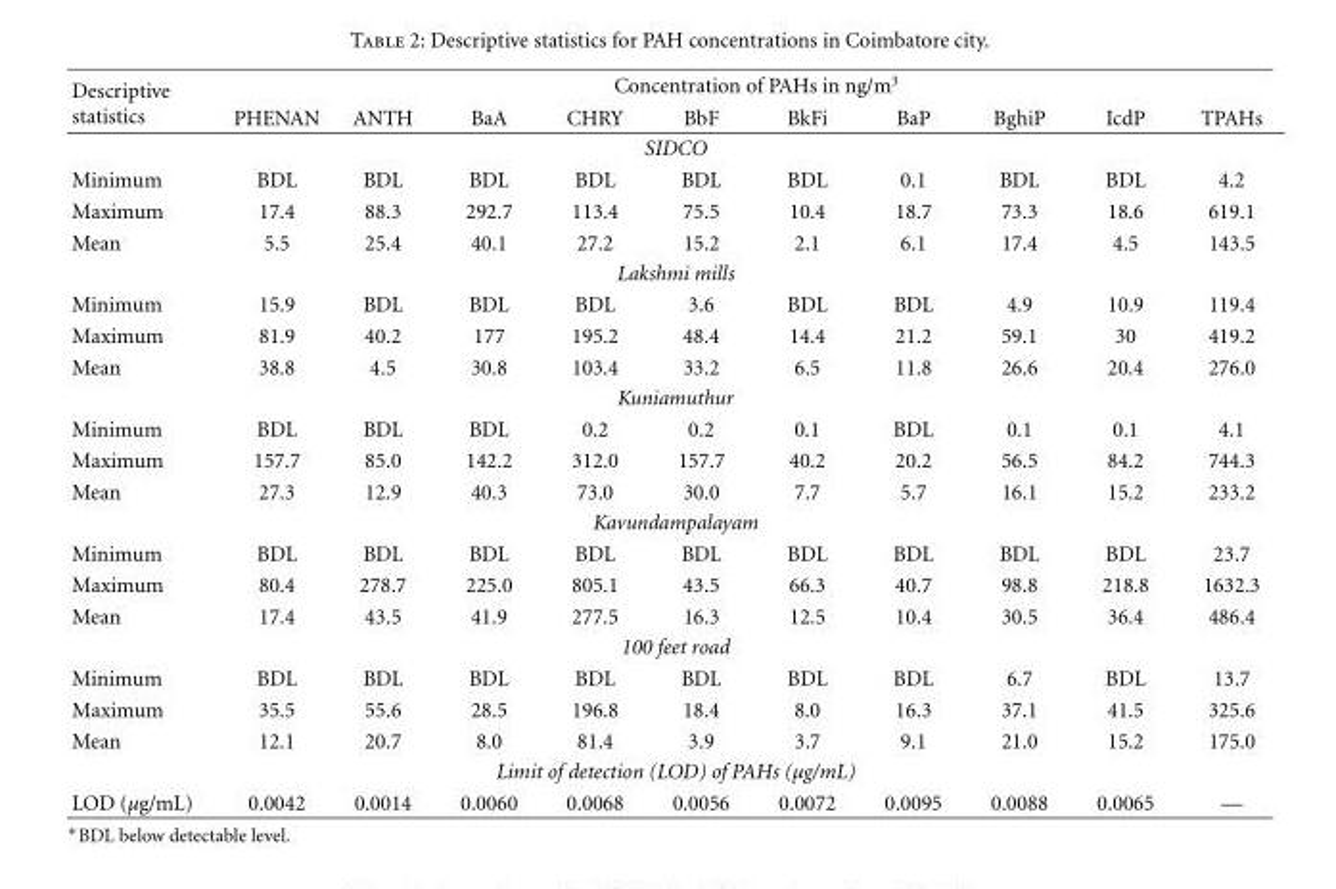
<table><thead><tr><td rowspan="2">Descriptive statistics</td><td colspan="10">Concentration of PAHs in ng/m<sup>3</sup></td></tr><tr><td>PHENAN</td><td>ANTH</td><td>BaA</td><td>CHRY</td><td>BbF</td><td>BkFi</td><td>BaP</td><td>BghiP</td><td>IcdP</td><td>TPAHs</td></tr></thead><tbody><tr><td colspan="11">SIDCO</td></tr><tr><td>Minimum</td><td>BDL</td><td>BDL</td><td>BDL</td><td>BDL</td><td>BDL</td><td>BDL</td><td>0.1</td><td>BDL</td><td>BDL</td><td>4.2</td></tr><tr><td>Maximum</td><td>17.4</td><td>88.3</td><td>292.7</td><td>113.4</td><td>75.5</td><td>10.4</td><td>18.7</td><td>73.3</td><td>18.6</td><td>619.1</td></tr><tr><td>Mean</td><td>5.5</td><td>25.4</td><td>40.1</td><td>27.2</td><td>15.2</td><td>2.1</td><td>6.1</td><td>17.4</td><td>4.5</td><td>143.5</td></tr><tr><td colspan="11">Lakshmi mills</td></tr><tr><td>Minimum</td><td>15.9</td><td>BDL</td><td>BDL</td><td>BDL</td><td>3.6</td><td>BDL</td><td>BDL</td><td>4.9</td><td>10.9</td><td>119.4</td></tr><tr><td>Maximum</td><td>81.9</td><td>40.2</td><td>177</td><td>195.2</td><td>48.4</td><td>14.4</td><td>21.2</td><td>59.1</td><td>30</td><td>419.2</td></tr><tr><td>Mean</td><td>38.8</td><td>4.5</td><td>30.8</td><td>103.4</td><td>33.2</td><td>6.5</td><td>11.8</td><td>26.6</td><td>20.4</td><td>276.0</td></tr><tr><td colspan="11">Kuniamuthur</td></tr><tr><td>Minimum</td><td>BDL</td><td>BDL</td><td>BDL</td><td>0.2</td><td>0.2</td><td>0.1</td><td>BDL</td><td>0.1</td><td>0.1</td><td>4.1</td></tr><tr><td>Maximum</td><td>157.7</td><td>85.0</td><td>142.2</td><td>312.0</td><td>157.7</td><td>40.2</td><td>20.2</td><td>56.5</td><td>84.2</td><td>744.3</td></tr><tr><td>Mean</td><td>27.3</td><td>12.9</td><td>40.3</td><td>73.0</td><td>30.0</td><td>7.7</td><td>5.7</td><td>16.1</td><td>15.2</td><td>233.2</td></tr><tr><td colspan="11">Kavundampalayam</td></tr><tr><td>Minimum</td><td>BDL</td><td>BDL</td><td>BDL</td><td>BDL</td><td>BDL</td><td>BDL</td><td>BDL</td><td>BDL</td><td>BDL</td><td>23.7</td></tr><tr><td>Maximum</td><td>80.4</td><td>278.7</td><td>225.0</td><td>805.1</td><td>43.5</td><td>66.3</td><td>40.7</td><td>98.8</td><td>218.8</td><td>1632.3</td></tr><tr><td>Mean</td><td>17.4</td><td>43.5</td><td>41.9</td><td>277.5</td><td>16.3</td><td>12.5</td><td>10.4</td><td>30.5</td><td>36.4</td><td>486.4</td></tr><tr><td colspan="11">100 feet road</td></tr><tr><td>Minimum</td><td>BDL</td><td>BDL</td><td>BDL</td><td>BDL</td><td>BDL</td><td>BDL</td><td>BDL</td><td>6.7</td><td>BDL</td><td>13.7</td></tr><tr><td>Maximum</td><td>35.5</td><td>55.6</td><td>28.5</td><td>196.8</td><td>18.4</td><td>8.0</td><td>16.3</td><td>37.1</td><td>41.5</td><td>325.6</td></tr><tr><td>Mean</td><td>12.1</td><td>20.7</td><td>8.0</td><td>81.4</td><td>3.9</td><td>3.7</td><td>9.1</td><td>21.0</td><td>15.2</td><td>175.0</td></tr><tr><td colspan="11">Limit of detection (LOD) of PAHs (µg/mL)</td></tr><tr><td>LOD (µg/mL)</td><td>0.0042</td><td>0.0014</td><td>0.0060</td><td>0.0068</td><td>0.0056</td><td>0.0072</td><td>0.0095</td><td>0.0088</td><td>0.0065</td><td>—</td></tr></tbody></table>